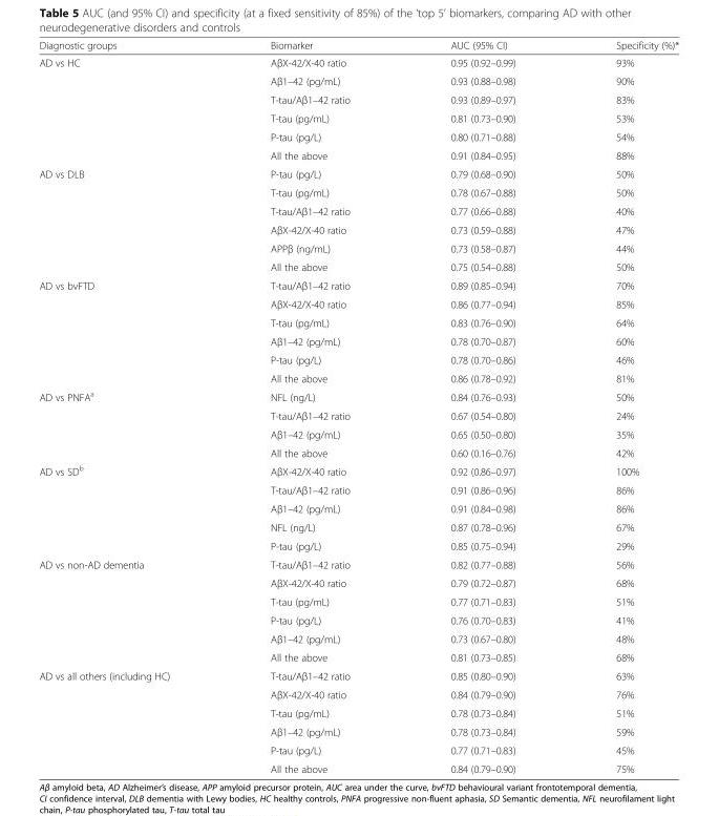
<table><thead><tr><td>Diagnostic groups</td><td>Biomarker</td><td>AUC (95% CI)</td><td>Specificity (%)*</td></tr></thead><tbody><tr><td rowspan="6">AD vs HC</td><td>AβX-42/X-40 ratio</td><td>0.95 (0.92–0.99)</td><td>93%</td></tr><tr><td>Aβ1–42 (pg/mL)</td><td>0.93 (0.88–0.98)</td><td>90%</td></tr><tr><td>T-tau/Aβ1–42 ratio</td><td>0.93 (0.89–0.97)</td><td>83%</td></tr><tr><td>T-tau (pg/mL)</td><td>0.81 (0.73–0.90)</td><td>53%</td></tr><tr><td>P-tau (pg/L)</td><td>0.80 (0.71–0.88)</td><td>54%</td></tr><tr><td>All the above</td><td>0.91 (0.84–0.95)</td><td>88%</td></tr><tr><td rowspan="6">AD vs DLB</td><td>P-tau (pg/L)</td><td>0.79 (0.68–0.90)</td><td>50%</td></tr><tr><td>T-tau (pg/mL)</td><td>0.78 (0.67–0.88)</td><td>50%</td></tr><tr><td>T-tau/Aβ1–42 ratio</td><td>0.77 (0.66–0.88)</td><td>40%</td></tr><tr><td>AβX-42/X-40 ratio</td><td>0.73 (0.59–0.88)</td><td>47%</td></tr><tr><td>APPβ (ng/mL)</td><td>0.73 (0.58–0.87)</td><td>44%</td></tr><tr><td>All the above</td><td>0.75 (0.54–0.88)</td><td>50%</td></tr><tr><td rowspan="6">AD vs bvFTD</td><td>T-tau/Aβ1–42 ratio</td><td>0.89 (0.85–0.94)</td><td>70%</td></tr><tr><td>AβX-42/X-40 ratio</td><td>0.86 (0.77–0.94)</td><td>85%</td></tr><tr><td>T-tau (pg/mL)</td><td>0.83 (0.76–0.90)</td><td>64%</td></tr><tr><td>Aβ1–42 (pg/mL)</td><td>0.78 (0.70–0.87)</td><td>60%</td></tr><tr><td>P-tau (pg/L)</td><td>0.78 (0.70–0.86)</td><td>46%</td></tr><tr><td>All the above</td><td>0.86 (0.78–0.92)</td><td>81%</td></tr><tr><td rowspan="4">AD vs PNFA<sup>a</sup></td><td>NFL (ng/L)</td><td>0.84 (0.76–0.93)</td><td>50%</td></tr><tr><td>T-tau/Aβ1–42 ratio</td><td>0.67 (0.54–0.80)</td><td>24%</td></tr><tr><td>Aβ1–42 (pg/mL)</td><td>0.65 (0.50–0.80)</td><td>35%</td></tr><tr><td>All the above</td><td>0.60 (0.16–0.76)</td><td>42%</td></tr><tr><td rowspan="5">AD vs SD<sup>b</sup></td><td>AβX-42/X-40 ratio</td><td>0.92 (0.86–0.97)</td><td>100%</td></tr><tr><td>T-tau/Aβ1–42 ratio</td><td>0.91 (0.86–0.96)</td><td>86%</td></tr><tr><td>Aβ1–42 (pg/mL)</td><td>0.91 (0.84–0.98)</td><td>86%</td></tr><tr><td>NFL (ng/L)</td><td>0.87 (0.78–0.96)</td><td>67%</td></tr><tr><td>P-tau (pg/L)</td><td>0.85 (0.75–0.94)</td><td>29%</td></tr><tr><td rowspan="6">AD vs non-AD dementia</td><td>T-tau/Aβ1–42 ratio</td><td>0.82 (0.77–0.88)</td><td>56%</td></tr><tr><td>AβX-42/X-40 ratio</td><td>0.79 (0.72–0.87)</td><td>68%</td></tr><tr><td>T-tau (pg/mL)</td><td>0.77 (0.71–0.83)</td><td>51%</td></tr><tr><td>P-tau (pg/L)</td><td>0.76 (0.70–0.83)</td><td>41%</td></tr><tr><td>Aβ1–42 (pg/mL)</td><td>0.73 (0.67–0.80)</td><td>48%</td></tr><tr><td>All the above</td><td>0.81 (0.73–0.85)</td><td>68%</td></tr><tr><td rowspan="6">AD vs all others (including HC)</td><td>T-tau/Aβ1–42 ratio</td><td>0.85 (0.80–0.90)</td><td>63%</td></tr><tr><td>AβX-42/X-40 ratio</td><td>0.84 (0.79–0.90)</td><td>76%</td></tr><tr><td>T-tau (pg/mL)</td><td>0.78 (0.73–0.84)</td><td>51%</td></tr><tr><td>Aβ1–42 (pg/mL)</td><td>0.78 (0.73–0.84)</td><td>59%</td></tr><tr><td>P-tau (pg/L)</td><td>0.77 (0.71–0.83)</td><td>45%</td></tr><tr><td>All the above</td><td>0.84 (0.79–0.90)</td><td>75%</td></tr></tbody></table>